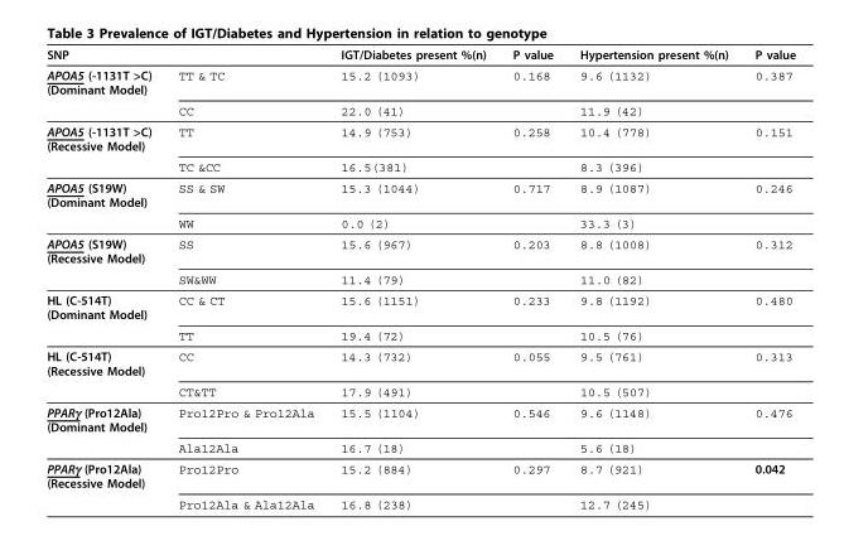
<table><thead><tr><td>SNP</td><td></td><td>IGT/Diabetes present %(n)</td><td>P value</td><td>Hypertension present %(n)</td><td>P value</td></tr></thead><tbody><tr><td rowspan="2">APOA5 (-1131T &gt;C) (Dominant Model)</td><td>TT &amp; TC</td><td>15.2 (1093)</td><td>0.168</td><td>9.6 (1132)</td><td>0.387</td></tr><tr><td>CC</td><td>22.0 (41)</td><td></td><td>11.9 (42)</td><td></td></tr><tr><td rowspan="2">APOA5 (-1131T &gt;C) (Recessive Model)</td><td>TT</td><td>14.9 (753)</td><td>0.258</td><td>10.4 (778)</td><td>0.151</td></tr><tr><td>TC &amp;CC</td><td>16.5(381)</td><td></td><td>8.3 (396)</td><td></td></tr><tr><td rowspan="2">APOA5 (S19W) (Dominant Model)</td><td>SS &amp; SW</td><td>15.3 (1044)</td><td>0.717</td><td>8.9 (1087)</td><td>0.246</td></tr><tr><td>WW</td><td>0.0 (2)</td><td></td><td>33.3 (3)</td><td></td></tr><tr><td rowspan="2">APOA5 (S19W) (Recessive Model)</td><td>SS</td><td>15.6 (967)</td><td>0.203</td><td>8.8 (1008)</td><td>0.312</td></tr><tr><td>SW&amp;WW</td><td>11.4 (79)</td><td></td><td>11.0 (82)</td><td></td></tr><tr><td rowspan="2">HL (C-514T) (Dominant Model)</td><td>CC &amp; CT</td><td>15.6 (1151)</td><td>0.233</td><td>9.8 (1192)</td><td>0.480</td></tr><tr><td>TT</td><td>19.4 (72)</td><td></td><td>10.5 (76)</td><td></td></tr><tr><td rowspan="2">HL (C-514T) (Recessive Model)</td><td>CC</td><td>14.3 (732)</td><td>0.055</td><td>9.5 (761)</td><td>0.313</td></tr><tr><td>CT&amp;TT</td><td>17.9 (491)</td><td></td><td>10.5 (507)</td><td></td></tr><tr><td rowspan="2">PPARγ (Pro12Ala) (Dominant Model)</td><td>Pro12Pro &amp; Pro12Ala</td><td>15.5 (1104)</td><td>0.546</td><td>9.6 (1148)</td><td>0.476</td></tr><tr><td>Ala12Ala</td><td>16.7 (18)</td><td></td><td>5.6 (18)</td><td></td></tr><tr><td rowspan="2">PPARγ (Pro12Ala) (Recessive Model)</td><td>Pro12Pro</td><td>15.2 (884)</td><td>0.297</td><td>8.7 (921)</td><td>0.042</td></tr><tr><td>Pro12Ala &amp; Ala12Ala</td><td>16.8 (238)</td><td></td><td>12.7 (245)</td><td></td></tr></tbody></table>